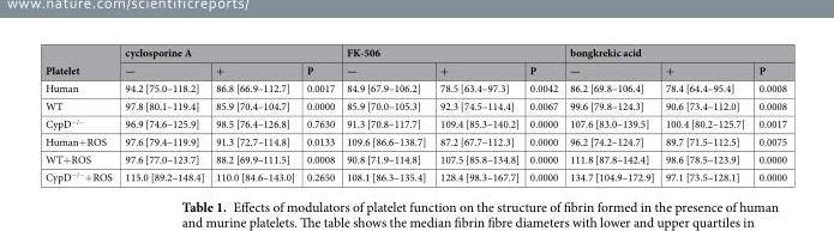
<table><thead><tr><td rowspan="2">Platelet</td><td colspan="3">cyclosporine A</td><td colspan="3">FK-506</td><td colspan="3">bongkrekic acid</td></tr><tr><td>—</td><td>+</td><td>P</td><td>—</td><td>+</td><td>P</td><td>—</td><td>+</td><td>P</td></tr></thead><tbody><tr><td>Human</td><td>94.2 [75.0–118.2]</td><td>86.8 [66.9–112.7]</td><td>0.0017</td><td>84.9 [67.9–106.2]</td><td>78.5 [63.4–97.3]</td><td>0.0042</td><td>86.2 [69.8–106.4]</td><td>78.4 [64.4–95.4]</td><td>0.0008</td></tr><tr><td>WT</td><td>97.8 [80.1–119.4]</td><td>85.9 [70.4–104.7]</td><td>0.0000</td><td>85.9 [70.0–105.3]</td><td>92.3 [74.5–114.4]</td><td>0.0067</td><td>99.6 [79.8–124.3]</td><td>90.6 [73.4–112.0]</td><td>0.0008</td></tr><tr><td>CypD<sup>−/−</sup></td><td>96.9 [74.6–125.9]</td><td>98.5 [76.4–126.8]</td><td>0.7630</td><td>91.3 [70.8–117.7]</td><td>109.4 [85.3–140.2]</td><td>0.0000</td><td>107.6 [83.0–139.5]</td><td>100.4 [80.2–125.7]</td><td>0.0017</td></tr><tr><td>Human+ROS</td><td>97.6 [79.4–119.9]</td><td>91.3 [72.7–114.8]</td><td>0.0133</td><td>109.6 [86.6–138.7]</td><td>87.2 [67.7–112.3]</td><td>0.0000</td><td>96.2 [74.2–124.7]</td><td>89.7 [71.5–112.5]</td><td>0.0075</td></tr><tr><td>WT+ROS</td><td>97.6 [77.0–123.7]</td><td>88.2 [69.9–111.5]</td><td>0.0008</td><td>90.8 [71.9–114.8]</td><td>107.5 [85.8–134.8]</td><td>0.0000</td><td>111.8 [87.8–142.4]</td><td>98.6 [78.5–123.9]</td><td>0.0000</td></tr><tr><td>CypD<sup>−/−</sup>+ROS</td><td>115.0 [89.2–148.4]</td><td>110.0 [84.6–143.0]</td><td>0.2650</td><td>108.1 [86.3–135.4]</td><td>128.4 [98.3–167.7]</td><td>0.0000</td><td>134.7 [104.9–172.9]</td><td>97.1 [73.5–128.1]</td><td>0.0000</td></tr></tbody></table>